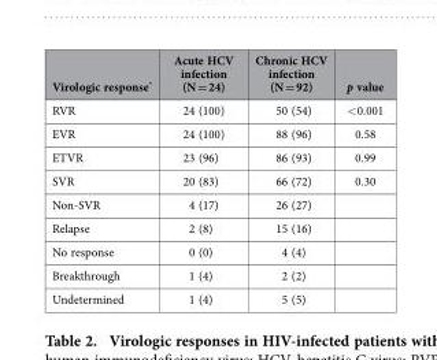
<table><thead><tr><td>Virologic response*</td><td>Acute HCV infection (N = 24)</td><td>Chronic HCV infection (N = 92)</td><td>p value</td></tr></thead><tbody><tr><td>RVR</td><td>24 (100)</td><td>50 (54)</td><td>&lt; 0.001</td></tr><tr><td>EVR</td><td>24 (100)</td><td>88 (96)</td><td>0.58</td></tr><tr><td>ETVR</td><td>23 (96)</td><td>86 (93)</td><td>0.99</td></tr><tr><td>SVR</td><td>20 (83)</td><td>66 (72)</td><td>0.30</td></tr><tr><td>Non-SVR</td><td>4 (17)</td><td>26 (27)</td><td></td></tr><tr><td>Relapse</td><td>2 (8)</td><td>15 (16)</td><td></td></tr><tr><td>No response</td><td>0 (0)</td><td>4 (4)</td><td></td></tr><tr><td>Breakthrough</td><td>1 (4)</td><td>2 (2)</td><td></td></tr><tr><td>Undetermined</td><td>1 (4)</td><td>5 (5)</td><td></td></tr></tbody></table>